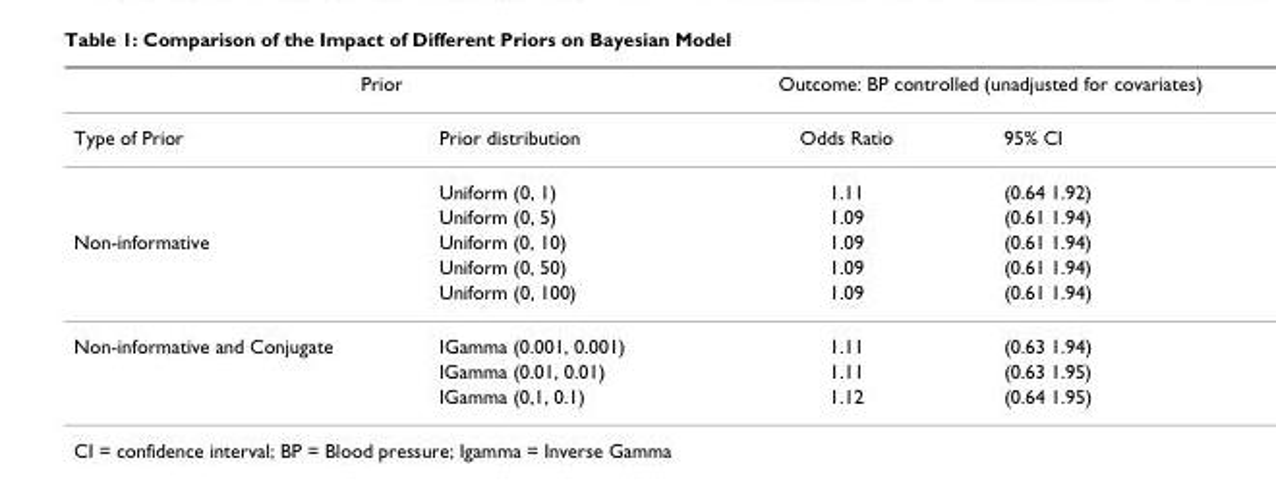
<table><thead><tr><td colspan="2">Prior</td><td colspan="2">Outcome: BP controlled (unadjusted for covariates)</td></tr><tr><td>Type of Prior</td><td>Prior distribution</td><td>Odds Ratio</td><td>95% CI</td></tr></thead><tbody><tr><td></td><td>Uniform (0, 1)</td><td>1.11</td><td>(0.64 1.92)</td></tr><tr><td></td><td>Uniform (0, 5)</td><td>1.09</td><td>(0.61 1.94)</td></tr><tr><td rowspan="3">Non-informative</td><td>Uniform (0, 10)</td><td>1.09</td><td>(0.61 1.94)</td></tr><tr><td>Uniform (0, 50)</td><td>1.09</td><td>(0.61 1.94)</td></tr><tr><td>Uniform (0, 100)</td><td>1.09</td><td>(0.61 1.94)</td></tr><tr><td rowspan="3">Non-informative and Conjugate</td><td>IGamma (0.001, 0.001)</td><td>1.11</td><td>(0.63 1.94)</td></tr><tr><td>IGamma (0.01, 0.01)</td><td>1.11</td><td>(0.63 1.95)</td></tr><tr><td>IGamma (0,1, 0.1)</td><td>1.12</td><td>(0.64 1.95)</td></tr></tbody></table>